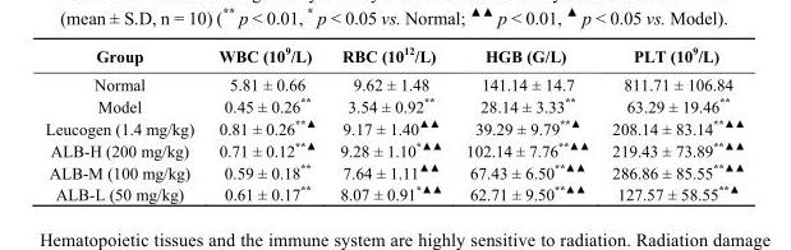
<table><thead><tr><td>Group</td><td>WBC (10<sup>9</sup>/L)</td><td>RBC (10<sup>12</sup>/L)</td><td>HGB (G/L)</td><td>PLT (10<sup>9</sup>/L)</td></tr></thead><tbody><tr><td>Normal</td><td>5.81 ± 0.66</td><td>9.62 ± 1.48</td><td>141.14 ± 14.7</td><td>811.71 ± 106.84</td></tr><tr><td>Model</td><td>0.45 ± 0.26**</td><td>3.54 ± 0.92**</td><td>28.14 ± 3.33**</td><td>63.29 ± 19.46**</td></tr><tr><td>Leucogen (1.4 mg/kg)</td><td>0.81 ± 0.26<sup>**▲</sup></td><td>9.17 ± 1.40<sup>▲▲</sup></td><td>39.29 ± 9.79<sup>**▲</sup></td><td>208.14 ± 83.14<sup>**▲▲</sup></td></tr><tr><td>ALB-H (200 mg/kg)</td><td>0.71 ± 0.12<sup>**▲</sup></td><td>9.28 ± 1.10<sup>*▲▲</sup></td><td>102.14 ± 7.76<sup>**▲▲</sup></td><td>219.43 ± 73.89<sup>**▲▲</sup></td></tr><tr><td>ALB-M (100 mg/kg)</td><td>0.59 ± 0.18**</td><td>7.64 ± 1.11<sup>▲▲</sup></td><td>67.43 ± 6.50<sup>**▲▲</sup></td><td>286.86 ± 85.55<sup>**▲▲</sup></td></tr><tr><td>ALB-L (50 mg/kg)</td><td>0.61 ± 0.17**</td><td>8.07 ± 0.91<sup>*▲▲</sup></td><td>62.71 ± 9.50<sup>**▲▲</sup></td><td>127.57 ± 58.55<sup>**▲</sup></td></tr></tbody></table>